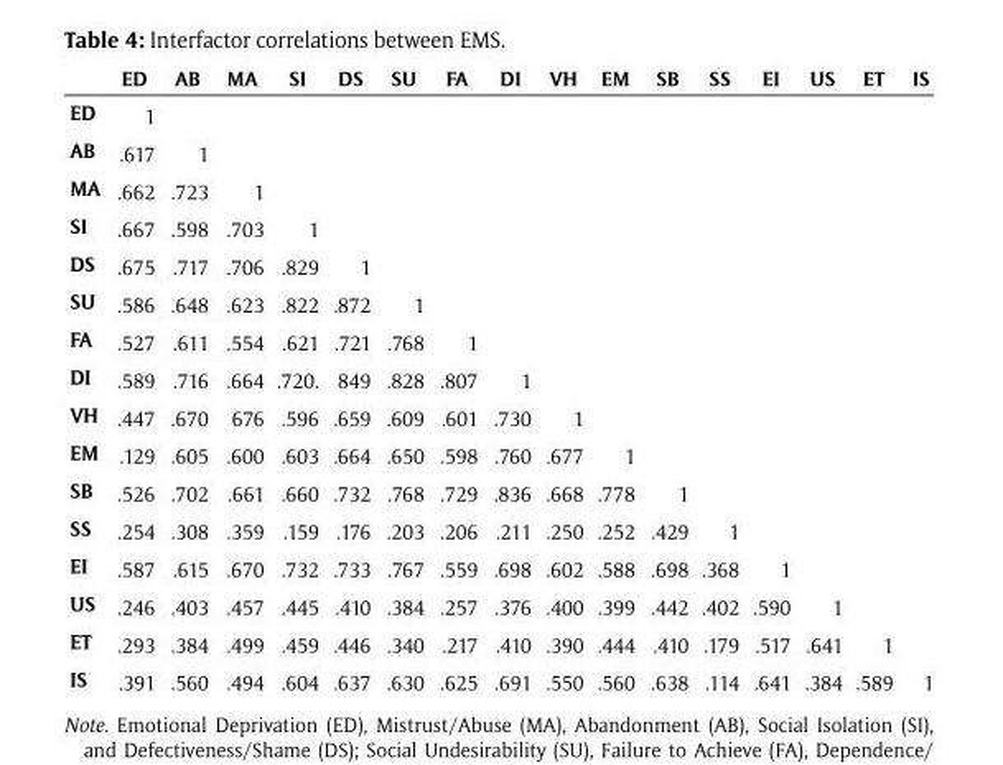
<table><thead><tr><td></td><td>ED</td><td>AB</td><td>MA</td><td>SI</td><td>DS</td><td>SU</td><td>FA</td><td>DI</td><td>VH</td><td>EM</td><td>SB</td><td>SS</td><td>EI</td><td>US</td><td>ET</td><td>IS</td></tr></thead><tbody><tr><td>ED</td><td>1</td><td></td><td></td><td></td><td></td><td></td><td></td><td></td><td></td><td></td><td></td><td></td><td></td><td></td><td></td><td></td></tr><tr><td>AB</td><td>.617</td><td>1</td><td></td><td></td><td></td><td></td><td></td><td></td><td></td><td></td><td></td><td></td><td></td><td></td><td></td><td></td></tr><tr><td>MA</td><td>.662</td><td>.723</td><td>1</td><td></td><td></td><td></td><td></td><td></td><td></td><td></td><td></td><td></td><td></td><td></td><td></td><td></td></tr><tr><td>SI</td><td>.667</td><td>.598</td><td>.703</td><td>1</td><td></td><td></td><td></td><td></td><td></td><td></td><td></td><td></td><td></td><td></td><td></td><td></td></tr><tr><td>DS</td><td>.675</td><td>.717</td><td>.706</td><td>.829</td><td>1</td><td></td><td></td><td></td><td></td><td></td><td></td><td></td><td></td><td></td><td></td><td></td></tr><tr><td>SU</td><td>.586</td><td>.648</td><td>.623</td><td>.822</td><td>.872</td><td>1</td><td></td><td></td><td></td><td></td><td></td><td></td><td></td><td></td><td></td><td></td></tr><tr><td>FA</td><td>.527</td><td>.611</td><td>.554</td><td>.621</td><td>.721</td><td>.768</td><td>1</td><td></td><td></td><td></td><td></td><td></td><td></td><td></td><td></td><td></td></tr><tr><td>DI</td><td>.589</td><td>.716</td><td>.664</td><td>.720.</td><td>849</td><td>.828</td><td>.807</td><td>1</td><td></td><td></td><td></td><td></td><td></td><td></td><td></td><td></td></tr><tr><td>VH</td><td>.447</td><td>.670</td><td>676</td><td>.596</td><td>.659</td><td>.609</td><td>.601</td><td>.730</td><td>1</td><td></td><td></td><td></td><td></td><td></td><td></td><td></td></tr><tr><td>EM</td><td>.129</td><td>.605</td><td>.600</td><td>.603</td><td>.664</td><td>.650</td><td>.598</td><td>.760</td><td>.677</td><td>1</td><td></td><td></td><td></td><td></td><td></td><td></td></tr><tr><td>SB</td><td>.526</td><td>.702</td><td>.661</td><td>.660</td><td>.732</td><td>.768</td><td>.729</td><td>.836</td><td>.668</td><td>.778</td><td>1</td><td></td><td></td><td></td><td></td><td></td></tr><tr><td>SS</td><td>.254</td><td>.308</td><td>.359</td><td>.159</td><td>.176</td><td>.203</td><td>.206</td><td>.211</td><td>.250</td><td>.252</td><td>.429</td><td>1</td><td></td><td></td><td></td><td></td></tr><tr><td>EI</td><td>.587</td><td>.615</td><td>.670</td><td>.732</td><td>.733</td><td>.767</td><td>.559</td><td>.698</td><td>.602</td><td>.588</td><td>.698</td><td>.368</td><td>1</td><td></td><td></td><td></td></tr><tr><td>US</td><td>.246</td><td>.403</td><td>.457</td><td>.445</td><td>.410</td><td>.384</td><td>.257</td><td>.376</td><td>.400</td><td>.399</td><td>.442</td><td>.402</td><td>.590</td><td>1</td><td></td><td></td></tr><tr><td>ET</td><td>.293</td><td>.384</td><td>.499</td><td>.459</td><td>.446</td><td>.340</td><td>.217</td><td>.410</td><td>.390</td><td>.444</td><td>.410</td><td>.179</td><td>.517</td><td>.641</td><td>1</td><td></td></tr><tr><td>IS</td><td>.391</td><td>.560</td><td>.494</td><td>.604</td><td>.637</td><td>.630</td><td>.625</td><td>.691</td><td>.550</td><td>.560</td><td>.638</td><td>.114</td><td>.641</td><td>.384</td><td>.589</td><td>1</td></tr></tbody></table>